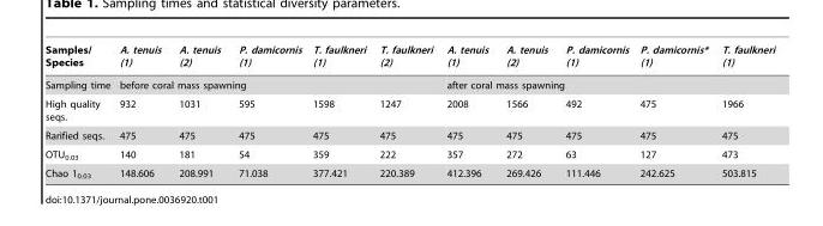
<table><thead><tr><td>Samples/ Species</td><td>A. tenuis (1)</td><td>A. tenuis (2)</td><td>P. damicornis (1)</td><td>T. faulkneri (1)</td><td>T. faulkneri (2)</td><td>A. tenuis (1)</td><td>A. tenuis (2)</td><td>P. damicornis (1)</td><td>P. damicornis* (1)</td><td>T. faulkneri (1)</td></tr></thead><tbody><tr><td>Sampling time</td><td colspan="5">before coral mass spawning</td><td colspan="5">after coral mass spawning</td></tr><tr><td>High quality seqs.</td><td>932</td><td>1031</td><td>595</td><td>1598</td><td>1247</td><td>2008</td><td>1566</td><td>492</td><td>475</td><td>1966</td></tr><tr><td>Rarified seqs.</td><td>475</td><td>475</td><td>475</td><td>475</td><td>475</td><td>475</td><td>475</td><td>475</td><td>475</td><td>475</td></tr><tr><td>OTU<sub>0.03</sub></td><td>140</td><td>181</td><td>54</td><td>359</td><td>222</td><td>357</td><td>272</td><td>63</td><td>127</td><td>473</td></tr><tr><td>Chao 1<sub>0.03</sub></td><td>148.606</td><td>208.991</td><td>71.038</td><td>377.421</td><td>220.389</td><td>412.396</td><td>269.426</td><td>111.446</td><td>242.625</td><td>503.815</td></tr></tbody></table>